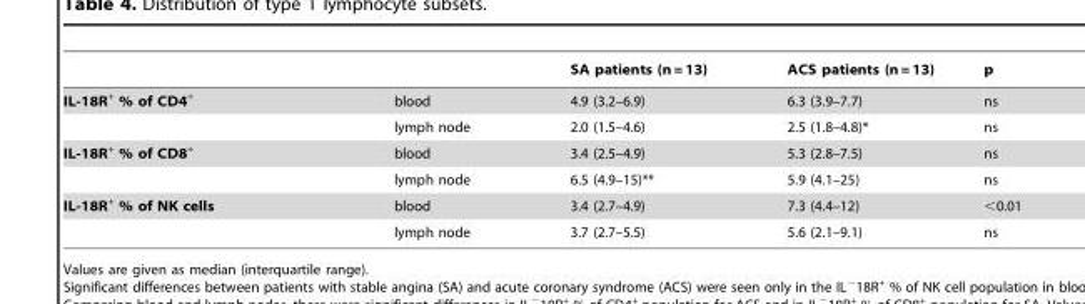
<table><thead><tr><td></td><td></td><td>SA patients (n = 13)</td><td>ACS patients (n = 13)</td><td>p</td></tr></thead><tbody><tr><td rowspan="2">IL-18R<sup>+</sup> % of CD4<sup>+</sup></td><td>blood</td><td>4.9 (3.2–6.9)</td><td>6.3 (3.9–7.7)</td><td>ns</td></tr><tr><td>lymph node</td><td>2.0 (1.5–4.6)</td><td>2.5 (1.8–4.8)*</td><td>ns</td></tr><tr><td rowspan="2">IL-18R<sup>+</sup> % of CD8<sup>+</sup></td><td>blood</td><td>3.4 (2.5–4.9)</td><td>5.3 (2.8–7.5)</td><td>ns</td></tr><tr><td>lymph node</td><td>6.5 (4.9–15)**</td><td>5.9 (4.1–25)</td><td>ns</td></tr><tr><td rowspan="2">IL-18R<sup>+</sup> % of NK cells</td><td>blood</td><td>3.4 (2.7–4.9)</td><td>7.3 (4.4–12)</td><td>&lt;0.01</td></tr><tr><td>lymph node</td><td>3.7 (2.7–5.5)</td><td>5.6 (2.1–9.1)</td><td>ns</td></tr></tbody></table>